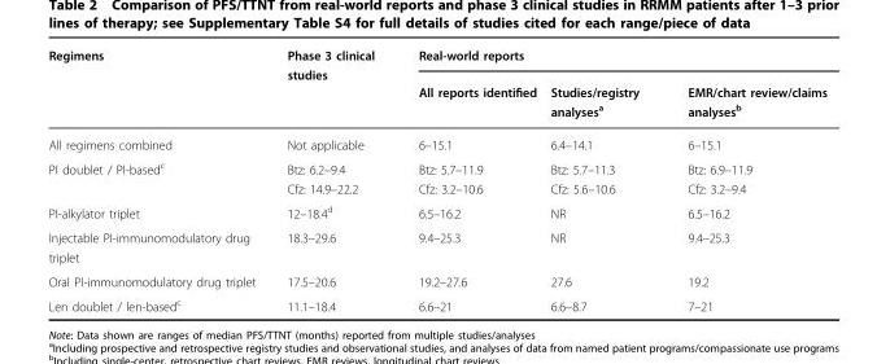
<table><thead><tr><td rowspan="2">Regimens</td><td rowspan="2">Phase 3 clinical studies</td><td colspan="3">Real-world reports</td></tr><tr><td>All reports identified</td><td>Studies/registry analyses<sup>a</sup></td><td>EMR/chart review/claims analyses<sup>b</sup></td></tr></thead><tbody><tr><td>All regimens combined</td><td>Not applicable</td><td>6–15.1</td><td>6.4–14.1</td><td>6–15.1</td></tr><tr><td>PI doublet / PI-based<sup>c</sup></td><td>Btz: 6.2–9.4 Cfz: 14.9–22.2</td><td>Btz: 5.7–11.9 Cfz: 3.2–10.6</td><td>Btz: 5.7–11.3 Cfz: 5.6–10.6</td><td>Btz: 6.9–11.9 Cfz: 3.2–9.4</td></tr><tr><td>PI-alkylator triplet</td><td>12–18.4<sup>d</sup></td><td>6.5–16.2</td><td>NR</td><td>6.5–16.2</td></tr><tr><td>Injectable PI-immunomodulatory drug triplet</td><td>18.3–29.6</td><td>9.4–25.3</td><td>NR</td><td>9.4–25.3</td></tr><tr><td>Oral PI-immunomodulatory drug triplet</td><td>17.5–20.6</td><td>19.2–27.6</td><td>27.6</td><td>19.2</td></tr><tr><td>Len doublet / len-based<sup>c</sup></td><td>11.1–18.4</td><td>6.6–21</td><td>6.6–8.7</td><td>7–21</td></tr></tbody></table>